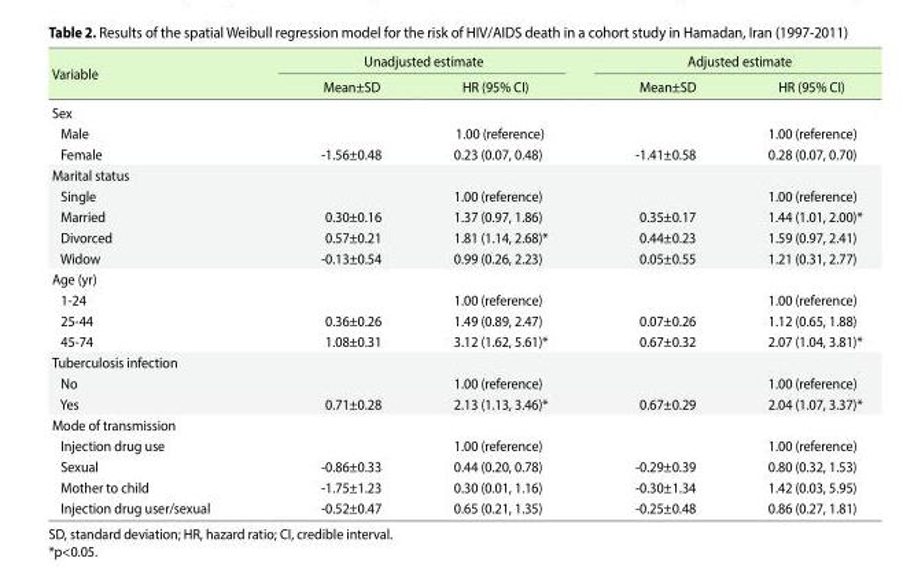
<table><thead><tr><td rowspan="2">Variable</td><td colspan="2">Unadjusted estimate</td><td colspan="2">Adjusted estimate</td></tr><tr><td>Mean±SD</td><td>HR (95% CI)</td><td>Mean±SD</td><td>HR (95% CI)</td></tr></thead><tbody><tr><td colspan="5">Sex</td></tr><tr><td>Male</td><td></td><td>1.00 (reference)</td><td></td><td>1.00 (reference)</td></tr><tr><td>Female</td><td>-1.56±0.48</td><td>0.23 (0.07, 0.48)</td><td>-1.41±0.58</td><td>0.28 (0.07, 0.70)</td></tr><tr><td colspan="5">Marital status</td></tr><tr><td>Single</td><td></td><td>1.00 (reference)</td><td></td><td>1.00 (reference)</td></tr><tr><td>Married</td><td>0.30±0.16</td><td>1.37 (0.97, 1.86)</td><td>0.35±0.17</td><td>1.44 (1.01, 2.00)*</td></tr><tr><td>Divorced</td><td>0.57±0.21</td><td>1.81 (1.14, 2.68)*</td><td>0.44±0.23</td><td>1.59 (0.97, 2.41)</td></tr><tr><td>Widow</td><td>-0.13±0.54</td><td>0.99 (0.26, 2.23)</td><td>0.05±0.55</td><td>1.21 (0.31, 2.77)</td></tr><tr><td colspan="5">Age (yr)</td></tr><tr><td>1-24</td><td></td><td>1.00 (reference)</td><td></td><td>1.00 (reference)</td></tr><tr><td>25-44</td><td>0.36±0.26</td><td>1.49 (0.89, 2.47)</td><td>0.07±0.26</td><td>1.12 (0.65, 1.88)</td></tr><tr><td>45-74</td><td>1.08±0.31</td><td>3.12 (1.62, 5.61)*</td><td>0.67±0.32</td><td>2.07 (1.04, 3.81)*</td></tr><tr><td colspan="5">Tuberculosis infection</td></tr><tr><td>No</td><td></td><td>1.00 (reference)</td><td></td><td>1.00 (reference)</td></tr><tr><td>Yes</td><td>0.71±0.28</td><td>2.13 (1.13, 3.46)*</td><td>0.67±0.29</td><td>2.04 (1.07, 3.37)*</td></tr><tr><td colspan="5">Mode of transmission</td></tr><tr><td>Injection drug use</td><td></td><td>1.00 (reference)</td><td></td><td>1.00 (reference)</td></tr><tr><td>Sexual</td><td>-0.86±0.33</td><td>0.44 (0.20, 0.78)</td><td>-0.29±0.39</td><td>0.80 (0.32, 1.53)</td></tr><tr><td>Mother to child</td><td>-1.75±1.23</td><td>0.30 (0.01, 1.16)</td><td>-0.30±1.34</td><td>1.42 (0.03, 5.95)</td></tr><tr><td>Injection drug user/sexual</td><td>-0.52±0.47</td><td>0.65 (0.21, 1.35)</td><td>-0.25±0.48</td><td>0.86 (0.27, 1.81)</td></tr></tbody></table>